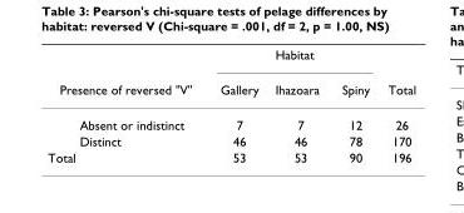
<table><thead><tr><td rowspan="2">Presence of reversed &quot;V&quot;</td><td colspan="3">Habitat</td><td rowspan="2">Total</td></tr><tr><td>Gallery</td><td>Ihazoara</td><td>Spiny</td></tr></thead><tbody><tr><td>Absent or indistinct</td><td>7</td><td>7</td><td>12</td><td>26</td></tr><tr><td>Distinct</td><td>46</td><td>46</td><td>78</td><td>170</td></tr><tr><td>Total</td><td>53</td><td>53</td><td>90</td><td>196</td></tr></tbody></table>